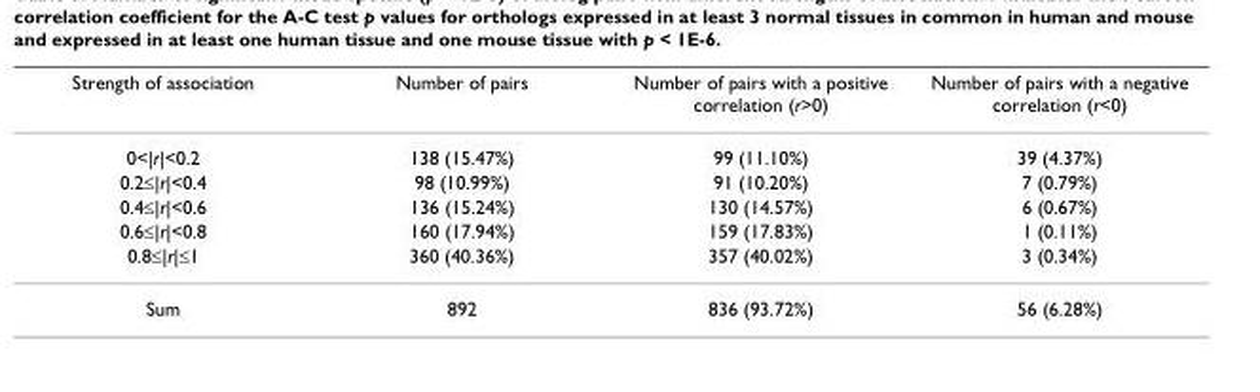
<table><thead><tr><td>Strength of association</td><td>Number of pairs</td><td>Number of pairs with a positive correlation (r&gt;0)</td><td>Number of pairs with a negative correlation (r&lt;0)</td></tr></thead><tbody><tr><td>0&lt;|r|&lt;0.2</td><td>138 (15.47%)</td><td>99 (11.10%)</td><td>39 (4.37%)</td></tr><tr><td>0.2≤|r|&lt;0.4</td><td>98 (10.99%)</td><td>91 (10.20%)</td><td>7 (0.79%)</td></tr><tr><td>0.4≤|r|&lt;0.6</td><td>136 (15.24%)</td><td>130 (14.57%)</td><td>6 (0.67%)</td></tr><tr><td>0.6≤|r|&lt;0.8</td><td>160 (17.94%)</td><td>159 (17.83%)</td><td>1 (0.11%)</td></tr><tr><td>0.8≤|r|≤1</td><td>360 (40.36%)</td><td>357 (40.02%)</td><td>3 (0.34%)</td></tr><tr><td>Sum</td><td>892</td><td>836 (93.72%)</td><td>56 (6.28%)</td></tr></tbody></table>